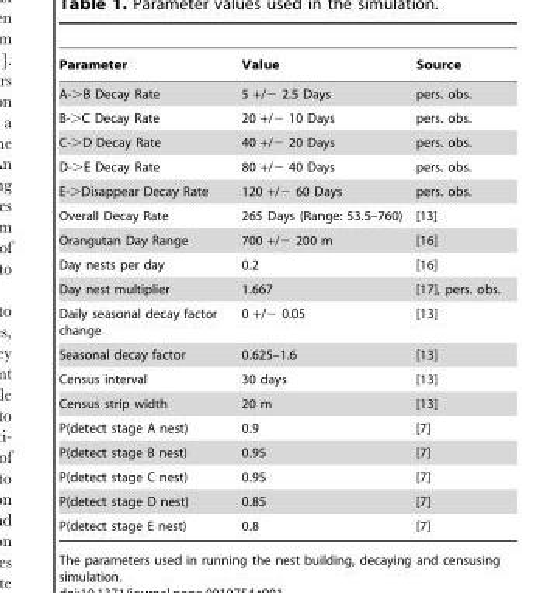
<table><thead><tr><td>Parameter</td><td>Value</td><td>Source</td></tr></thead><tbody><tr><td>A-&gt;B Decay Rate</td><td>5 +/− 2.5 Days</td><td>pers. obs.</td></tr><tr><td>B-&gt;C Decay Rate</td><td>20 +/− 10 Days</td><td>pers. obs.</td></tr><tr><td>C-&gt;D Decay Rate</td><td>40 +/− 20 Days</td><td>pers. obs.</td></tr><tr><td>D-&gt;E Decay Rate</td><td>80 +/− 40 Days</td><td>pers. obs.</td></tr><tr><td>E-&gt;Disappear Decay Rate</td><td>120 +/− 60 Days</td><td>pers. obs.</td></tr><tr><td>Overall Decay Rate</td><td>265 Days (Range: 53.5–760)</td><td>[13]</td></tr><tr><td>Orangutan Day Range</td><td>700 +/− 200 m</td><td>[16]</td></tr><tr><td>Day nests per day</td><td>0.2</td><td>[16]</td></tr><tr><td>Day nest multiplier</td><td>1.667</td><td>[17], pers. obs.</td></tr><tr><td>Daily seasonal decay factor change</td><td>0 +/− 0.05</td><td>[13]</td></tr><tr><td>Seasonal decay factor</td><td>0.625–1.6</td><td>[13]</td></tr><tr><td>Census interval</td><td>30 days</td><td>[13]</td></tr><tr><td>Census strip width</td><td>20 m</td><td>[13]</td></tr><tr><td>P(detect stage A nest)</td><td>0.9</td><td>[7]</td></tr><tr><td>P(detect stage B nest)</td><td>0.95</td><td>[7]</td></tr><tr><td>P(detect stage C nest)</td><td>0.95</td><td>[7]</td></tr><tr><td>P(detect stage D nest)</td><td>0.85</td><td>[7]</td></tr><tr><td>P(detect stage E nest)</td><td>0.8</td><td>[7]</td></tr></tbody></table>